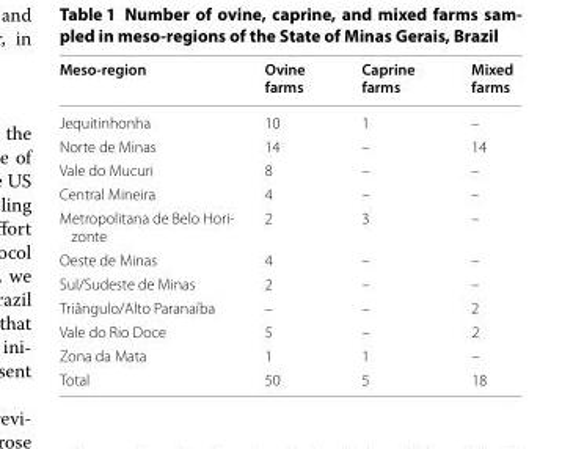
<table><thead><tr><td>Meso-region</td><td>Ovine farms</td><td>Caprine farms</td><td>Mixed farms</td></tr></thead><tbody><tr><td>Jequitinhonha</td><td>10</td><td>1</td><td>–</td></tr><tr><td>Norte de Minas</td><td>14</td><td>–</td><td>14</td></tr><tr><td>Vale do Mucuri</td><td>8</td><td>–</td><td>–</td></tr><tr><td>Central Mineira</td><td>4</td><td>–</td><td>–</td></tr><tr><td>Metropolitana de Belo Hori- zonte</td><td>2</td><td>3</td><td>–</td></tr><tr><td>Oeste de Minas</td><td>4</td><td>–</td><td>–</td></tr><tr><td>Sul/Sudeste de Minas</td><td>2</td><td>–</td><td>–</td></tr><tr><td>Triângulo/Alto Paranaíba</td><td>–</td><td>–</td><td>2</td></tr><tr><td>Vale do Rio Doce</td><td>5</td><td>–</td><td>2</td></tr><tr><td>Zona da Mata</td><td>1</td><td>1</td><td>–</td></tr><tr><td>Total</td><td>50</td><td>5</td><td>18</td></tr></tbody></table>